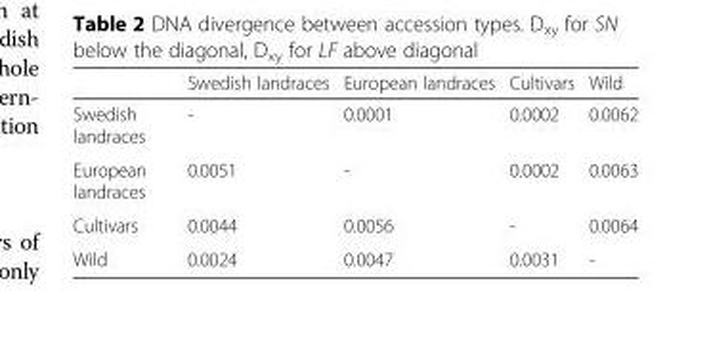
<table><thead><tr><td></td><td>Swedish landraces</td><td>European landraces</td><td>Cultivars</td><td>Wild</td></tr></thead><tbody><tr><td>Swedish landraces</td><td>-</td><td>0.0001</td><td>0.0002</td><td>0.0062</td></tr><tr><td>European landraces</td><td>0.0051</td><td>-</td><td>0.0002</td><td>0.0063</td></tr><tr><td>Cultivars</td><td>0.0044</td><td>0.0056</td><td>-</td><td>0.0064</td></tr><tr><td>Wild</td><td>0.0024</td><td>0.0047</td><td>0.0031</td><td>-</td></tr></tbody></table>